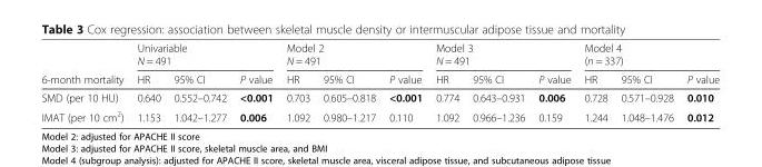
<table><thead><tr><td rowspan="2">6-month mortality</td><td colspan="3">Univariable N = 491</td><td colspan="3">Model 2 N = 491</td><td colspan="3">Model 3 N = 491</td><td colspan="3">Model 4 (n = 337)</td></tr><tr><td>HR</td><td>95% CI</td><td>P value</td><td>HR</td><td>95% CI</td><td>P value</td><td>HR</td><td>95% CI</td><td>P value</td><td>HR</td><td>95% CI</td><td>P value</td></tr></thead><tbody><tr><td>SMD (per 10 HU)</td><td>0.640</td><td>0.552–0.742</td><td>&lt;0.001</td><td>0.703</td><td>0.605–0.818</td><td>&lt;0.001</td><td>0.774</td><td>0.643–0.931</td><td>0.006</td><td>0.728</td><td>0.571–0.928</td><td>0.010</td></tr><tr><td>IMAT (per 10 cm<sup>2</sup>)</td><td>1.153</td><td>1.042–1.277</td><td>0.006</td><td>1.092</td><td>0.980–1.217</td><td>0.110</td><td>1.092</td><td>0.966–1.236</td><td>0.159</td><td>1.244</td><td>1.048–1.476</td><td>0.012</td></tr></tbody></table>